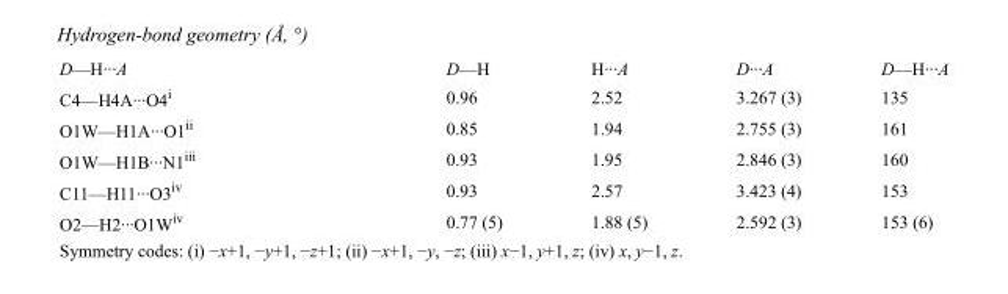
<table><tbody><tr><td>D—H···A</td><td>D—H</td><td>H···A</td><td>D···A</td><td>D—H···A</td></tr><tr><td>C4—H4A···O4<sup>i</sup></td><td>0.96</td><td>2.52</td><td>3.267 (3)</td><td>135</td></tr><tr><td>O1W—H1A···O1<sup>ii</sup></td><td>0.85</td><td>1.94</td><td>2.755 (3)</td><td>161</td></tr><tr><td>O1W—H1B···N1<sup>iii</sup></td><td>0.93</td><td>1.95</td><td>2.846 (3)</td><td>160</td></tr><tr><td>C11—H11···O3<sup>iv</sup></td><td>0.93</td><td>2.57</td><td>3.423 (4)</td><td>153</td></tr><tr><td>O2—H2···O1W<sup>iv</sup></td><td>0.77 (5)</td><td>1.88 (5)</td><td>2.592 (3)</td><td>153 (6)</td></tr></tbody></table>